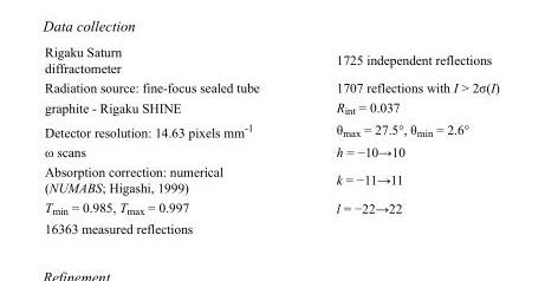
<table><tbody><tr><td>Rigaku Saturn diffractometer</td><td>1725 independent reflections</td></tr><tr><td>Radiation source: fine-focus sealed tube</td><td>1707 reflections with I &gt; 2σ(I)</td></tr><tr><td>graphite - Rigaku SHINE</td><td>R<sub>int</sub> = 0.037</td></tr><tr><td>Detector resolution: 14.63 pixels mm<sup>-1</sup></td><td>θ<sub>max</sub> = 27.5°, θ<sub>min</sub> = 2.6°</td></tr><tr><td>ω scans</td><td>h = −10→10</td></tr><tr><td>Absorption correction: numerical (NUMABS; Higashi, 1999)</td><td>k = −11→11</td></tr><tr><td>T<sub>min</sub> = 0.985, T<sub>max</sub> = 0.997</td><td>l = −22→22</td></tr><tr><td>16363 measured reflections</td><td></td></tr></tbody></table>